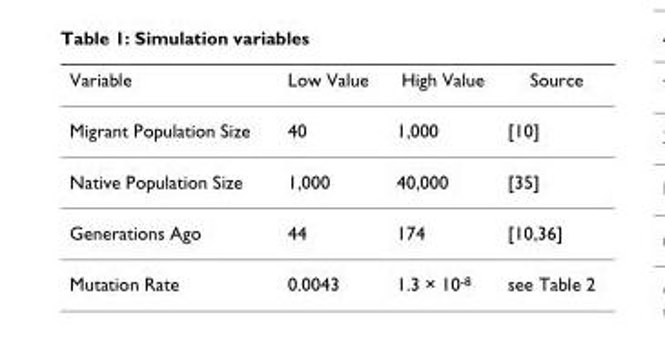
<table><thead><tr><td>Variable</td><td>Low Value</td><td>High Value</td><td>Source</td></tr></thead><tbody><tr><td>Migrant Population Size</td><td>40</td><td>1,000</td><td>[10]</td></tr><tr><td>Native Population Size</td><td>1,000</td><td>40,000</td><td>[35]</td></tr><tr><td>Generations Ago</td><td>44</td><td>174</td><td>[10,36]</td></tr><tr><td>Mutation Rate</td><td>0.0043</td><td>1.3 × 10<sup>-8</sup></td><td>see Table 2</td></tr></tbody></table>